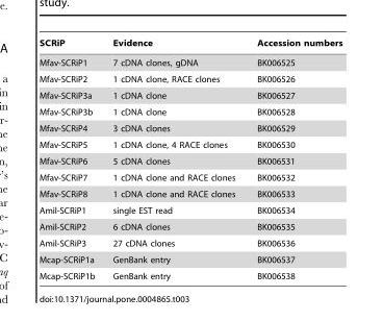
<table><thead><tr><td>SCRiP</td><td>Evidence</td><td>Accession numbers</td></tr></thead><tbody><tr><td>Mfav-SCRiP1</td><td>7 cDNA clones, gDNA</td><td>BK006525</td></tr><tr><td>Mfav-SCRiP2</td><td>1 cDNA clone, RACE clones</td><td>BK006526</td></tr><tr><td>Mfav-SCRiP3a</td><td>1 cDNA clone</td><td>BK006527</td></tr><tr><td>Mfav-SCRiP3b</td><td>1 cDNA clone</td><td>BK006528</td></tr><tr><td>Mfav-SCRiP4</td><td>3 cDNA clones</td><td>BK006529</td></tr><tr><td>Mfav-SCRiP5</td><td>1 cDNA clone, 4 RACE clones</td><td>BK006530</td></tr><tr><td>Mfav-SCRiP6</td><td>5 cDNA clones</td><td>BK006531</td></tr><tr><td>Mfav-SCRiP7</td><td>1 cDNA clone and RACE clones</td><td>BK006532</td></tr><tr><td>Mfav-SCRiP8</td><td>1 cDNA clone and RACE clones</td><td>BK006533</td></tr><tr><td>Amil-SCRiP1</td><td>single EST read</td><td>BK006534</td></tr><tr><td>Amil-SCRiP2</td><td>6 cDNA clones</td><td>BK006535</td></tr><tr><td>Amil-SCRiP3</td><td>27 cDNA clones</td><td>BK006536</td></tr><tr><td>Mcap-SCRiP1a</td><td>GenBank entry</td><td>BK006537</td></tr><tr><td>Mcap-SCRiP1b</td><td>GenBank entry</td><td>BK006538</td></tr></tbody></table>